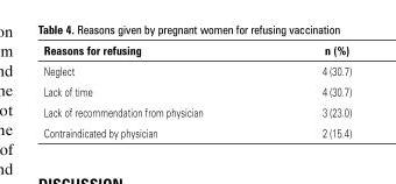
<table><thead><tr><td>Reasons for refusing</td><td>n (%)</td></tr></thead><tbody><tr><td>Neglect</td><td>4 (30.7)</td></tr><tr><td>Lack of time</td><td>4 (30.7)</td></tr><tr><td>Lack of recommendation from physician</td><td>3 (23.0)</td></tr><tr><td>Contraindicated by physician</td><td>2 (15.4)</td></tr></tbody></table>